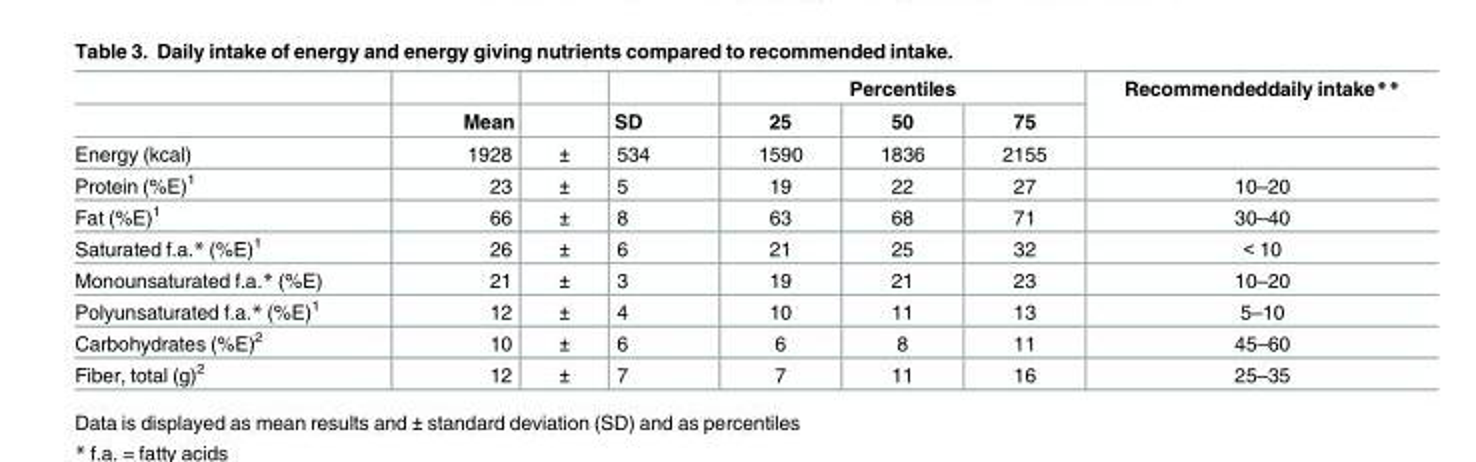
<table><thead><tr><td rowspan="2"></td><td rowspan="2">Mean</td><td rowspan="2"></td><td rowspan="2">SD</td><td colspan="3">Percentiles</td><td rowspan="2">Recommendeddaily intake**</td></tr><tr><td>25</td><td>50</td><td>75</td></tr></thead><tbody><tr><td>Energy (kcal)</td><td>1928</td><td>±</td><td>534</td><td>1590</td><td>1836</td><td>2155</td><td></td></tr><tr><td>Protein (%E)<sup>1</sup></td><td>23</td><td>±</td><td>5</td><td>19</td><td>22</td><td>27</td><td>10–20</td></tr><tr><td>Fat (%E)<sup>1</sup></td><td>66</td><td>±</td><td>8</td><td>63</td><td>68</td><td>71</td><td>30–40</td></tr><tr><td>Saturated f.a.* (%E)<sup>1</sup></td><td>26</td><td>±</td><td>6</td><td>21</td><td>25</td><td>32</td><td>&lt; 10</td></tr><tr><td>Monounsaturated f.a.* (%E)</td><td>21</td><td>±</td><td>3</td><td>19</td><td>21</td><td>23</td><td>10–20</td></tr><tr><td>Polyunsaturated f.a.* (%E)<sup>1</sup></td><td>12</td><td>±</td><td>4</td><td>10</td><td>11</td><td>13</td><td>5–10</td></tr><tr><td>Carbohydrates (%E)<sup>2</sup></td><td>10</td><td>±</td><td>6</td><td>6</td><td>8</td><td>11</td><td>45–60</td></tr><tr><td>Fiber, total (g)<sup>2</sup></td><td>12</td><td>±</td><td>7</td><td>7</td><td>11</td><td>16</td><td>25–35</td></tr></tbody></table>